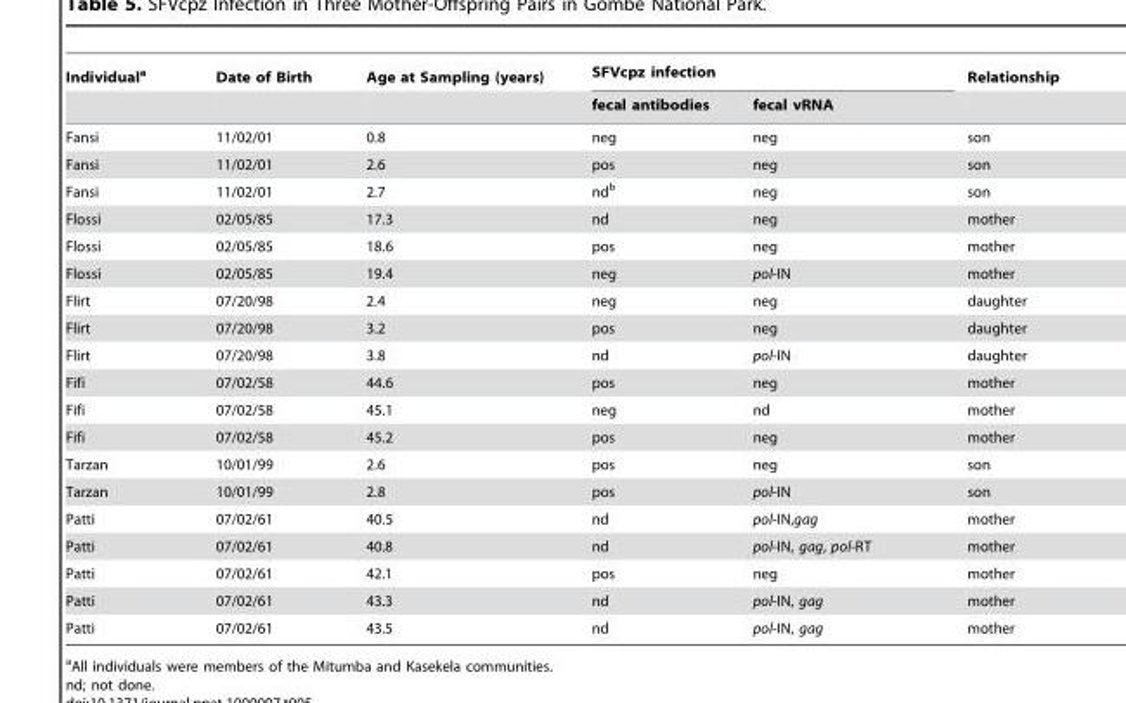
<table><thead><tr><td rowspan="2">Individual<sup>a</sup></td><td rowspan="2">Date of Birth</td><td rowspan="2">Age at Sampling (years)</td><td colspan="2">SFVcpz infection</td><td rowspan="2">Relationship</td></tr><tr><td>fecal antibodies</td><td>fecal vRNA</td></tr></thead><tbody><tr><td>Fansi</td><td>11/02/01</td><td>0.8</td><td>neg</td><td>neg</td><td>son</td></tr><tr><td>Fansi</td><td>11/02/01</td><td>2.6</td><td>pos</td><td>neg</td><td>son</td></tr><tr><td>Fansi</td><td>11/02/01</td><td>2.7</td><td>nd<sup>b</sup></td><td>neg</td><td>son</td></tr><tr><td>Flossi</td><td>02/05/85</td><td>17.3</td><td>nd</td><td>neg</td><td>mother</td></tr><tr><td>Flossi</td><td>02/05/85</td><td>18.6</td><td>pos</td><td>neg</td><td>mother</td></tr><tr><td>Flossi</td><td>02/05/85</td><td>19.4</td><td>neg</td><td>pol-IN</td><td>mother</td></tr><tr><td>Flirt</td><td>07/20/98</td><td>2.4</td><td>neg</td><td>neg</td><td>daughter</td></tr><tr><td>Flirt</td><td>07/20/98</td><td>3.2</td><td>pos</td><td>neg</td><td>daughter</td></tr><tr><td>Flirt</td><td>07/20/98</td><td>3.8</td><td>nd</td><td>pol-IN</td><td>daughter</td></tr><tr><td>Fifi</td><td>07/02/58</td><td>44.6</td><td>pos</td><td>neg</td><td>mother</td></tr><tr><td>Fifi</td><td>07/02/58</td><td>45.1</td><td>neg</td><td>nd</td><td>mother</td></tr><tr><td>Fifi</td><td>07/02/58</td><td>45.2</td><td>pos</td><td>neg</td><td>mother</td></tr><tr><td>Tarzan</td><td>10/01/99</td><td>2.6</td><td>pos</td><td>neg</td><td>son</td></tr><tr><td>Tarzan</td><td>10/01/99</td><td>2.8</td><td>pos</td><td>pol-IN</td><td>son</td></tr><tr><td>Patti</td><td>07/02/61</td><td>40.5</td><td>nd</td><td>pol-IN,gag</td><td>mother</td></tr><tr><td>Patti</td><td>07/02/61</td><td>40.8</td><td>nd</td><td>pol-IN, gag, pol-RT</td><td>mother</td></tr><tr><td>Patti</td><td>07/02/61</td><td>42.1</td><td>pos</td><td>neg</td><td>mother</td></tr><tr><td>Patti</td><td>07/02/61</td><td>43.3</td><td>nd</td><td>pol-IN, gag</td><td>mother</td></tr><tr><td>Patti</td><td>07/02/61</td><td>43.5</td><td>nd</td><td>pol-IN, gag</td><td>mother</td></tr></tbody></table>